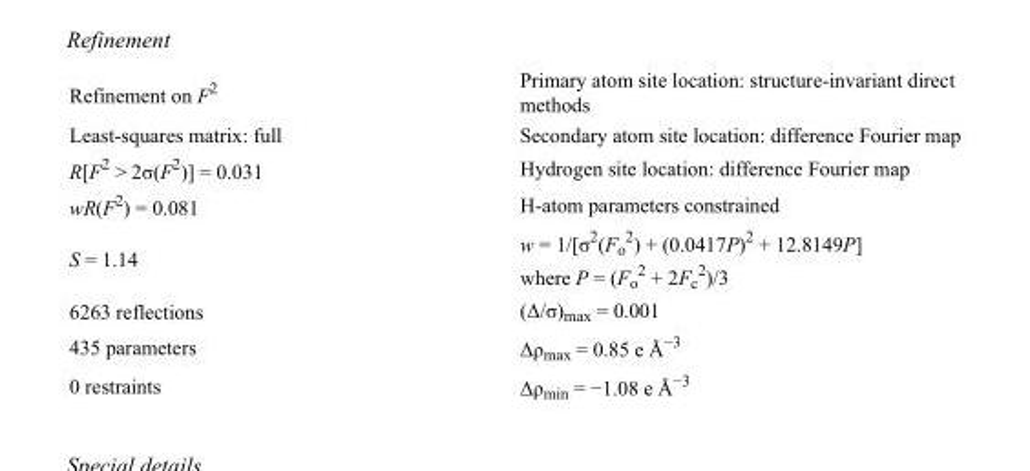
<table><tbody><tr><td>Refinement on F<sup>2</sup></td><td>Primary atom site location: structure-invariant direct methods</td></tr><tr><td>Least-squares matrix: full</td><td>Secondary atom site location: difference Fourier map</td></tr><tr><td>R[F<sup>2</sup> &gt; 2σ(F<sup>2</sup>)] = 0.031</td><td>Hydrogen site location: difference Fourier map</td></tr><tr><td>wR(F<sup>2</sup>) = 0.081</td><td>H-atom parameters constrained</td></tr><tr><td>S = 1.14</td><td>w = 1/[σ<sup>2</sup>(F<sub>o</sub> <sup>2</sup>) + (0.0417P)<sup>2</sup> + 12.8149P] where P = (F<sub>o</sub> <sup>2</sup> + 2F<sub>c</sub> <sup>2</sup>)/3</td></tr><tr><td>6263 reflections</td><td>(Δ/σ)<sub>max</sub> = 0.001</td></tr><tr><td>435 parameters</td><td>Δρ<sub>max</sub> = 0.85 e Å<sup>−3</sup></td></tr><tr><td>0 restraints</td><td>Δρ<sub>min</sub> = −1.08 e Å<sup>−3</sup></td></tr></tbody></table>